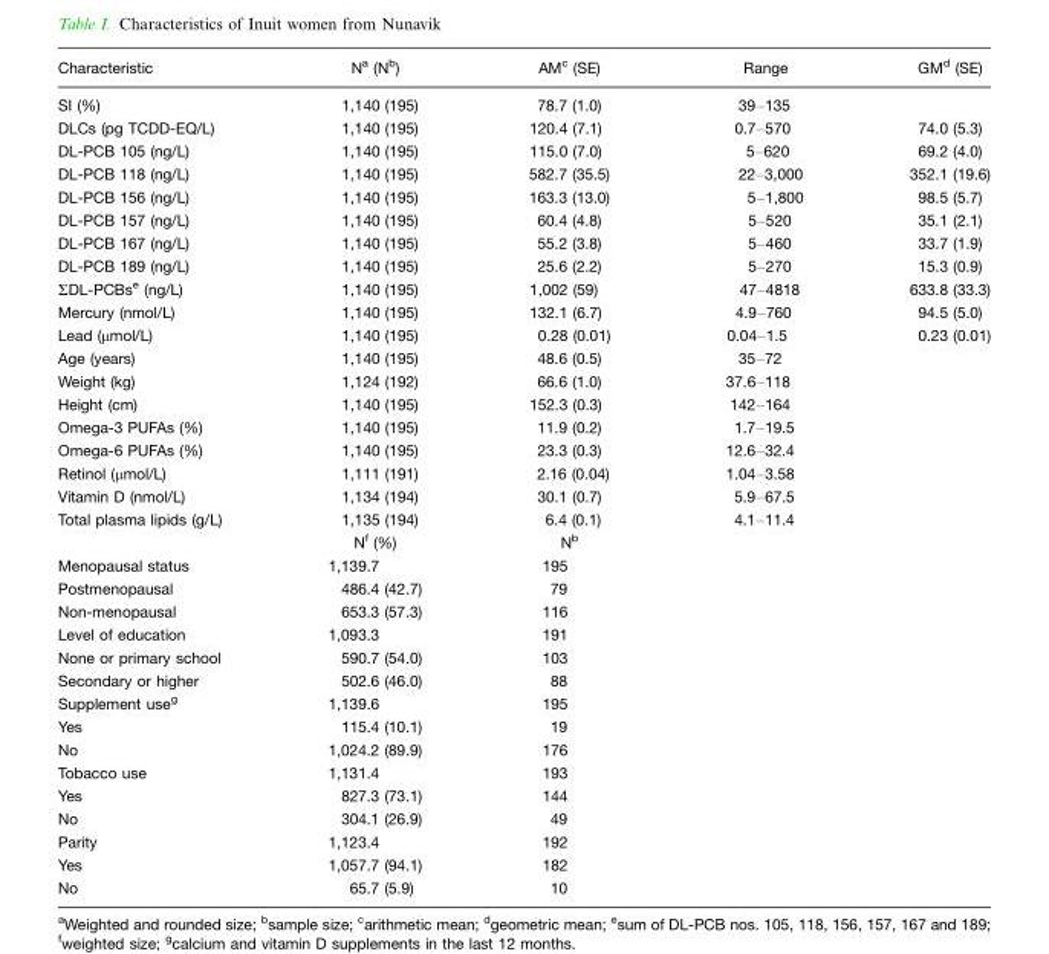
<table><thead><tr><td>Characteristic</td><td>N<sup>a</sup> (N<sup>b</sup>)</td><td>AM<sup>c</sup> (SE)</td><td>Range</td><td>GM<sup>d</sup> (SE)</td></tr></thead><tbody><tr><td>SI (%)</td><td>1,140 (195)</td><td>78.7 (1.0)</td><td>39–135</td><td></td></tr><tr><td>DLCs (pg TCDD-EQ/L)</td><td>1,140 (195)</td><td>120.4 (7.1)</td><td>0.7–570</td><td>74.0 (5.3)</td></tr><tr><td>DL-PCB 105 (ng/L)</td><td>1,140 (195)</td><td>115.0 (7.0)</td><td>5–620</td><td>69.2 (4.0)</td></tr><tr><td>DL-PCB 118 (ng/L)</td><td>1,140 (195)</td><td>582.7 (35.5)</td><td>22–3,000</td><td>352.1 (19.6)</td></tr><tr><td>DL-PCB 156 (ng/L)</td><td>1,140 (195)</td><td>163.3 (13.0)</td><td>5–1,800</td><td>98.5 (5.7)</td></tr><tr><td>DL-PCB 157 (ng/L)</td><td>1,140 (195)</td><td>60.4 (4.8)</td><td>5–520</td><td>35.1 (2.1)</td></tr><tr><td>DL-PCB 167 (ng/L)</td><td>1,140 (195)</td><td>55.2 (3.8)</td><td>5–460</td><td>33.7 (1.9)</td></tr><tr><td>DL-PCB 189 (ng/L)</td><td>1,140 (195)</td><td>25.6 (2.2)</td><td>5–270</td><td>15.3 (0.9)</td></tr><tr><td>ΣDL-PCBs<sup>e</sup> (ng/L)</td><td>1,140 (195)</td><td>1,002 (59)</td><td>47–4818</td><td>633.8 (33.3)</td></tr><tr><td>Mercury (nmol/L)</td><td>1,140 (195)</td><td>132.1 (6.7)</td><td>4.9–760</td><td>94.5 (5.0)</td></tr><tr><td>Lead (µmol/L)</td><td>1,140 (195)</td><td>0.28 (0.01)</td><td>0.04–1.5</td><td>0.23 (0.01)</td></tr><tr><td>Age (years)</td><td>1,140 (195)</td><td>48.6 (0.5)</td><td>35–72</td><td></td></tr><tr><td>Weight (kg)</td><td>1,124 (192)</td><td>66.6 (1.0)</td><td>37.6–118</td><td></td></tr><tr><td>Height (cm)</td><td>1,140 (195)</td><td>152.3 (0.3)</td><td>142–164</td><td></td></tr><tr><td>Omega-3 PUFAs (%)</td><td>1,140 (195)</td><td>11.9 (0.2)</td><td>1.7–19.5</td><td></td></tr><tr><td>Omega-6 PUFAs (%)</td><td>1,140 (195)</td><td>23.3 (0.3)</td><td>12.6–32.4</td><td></td></tr><tr><td>Retinol (µmol/L)</td><td>1,111 (191)</td><td>2.16 (0.04)</td><td>1.04–3.58</td><td></td></tr><tr><td>Vitamin D (nmol/L)</td><td>1,134 (194)</td><td>30.1 (0.7)</td><td>5.9–67.5</td><td></td></tr><tr><td rowspan="2">Total plasma lipids (g/L)</td><td>1,135 (194)</td><td>6.4 (0.1)</td><td>4.1–11.4</td><td></td></tr><tr><td>N<sup>f</sup> (%)</td><td>N<sup>b</sup></td><td></td><td></td></tr><tr><td>Menopausal status</td><td>1,139.7</td><td>195</td><td></td><td></td></tr><tr><td>Postmenopausal</td><td>486.4 (42.7)</td><td>79</td><td></td><td></td></tr><tr><td>Non-menopausal</td><td>653.3 (57.3)</td><td>116</td><td></td><td></td></tr><tr><td>Level of education</td><td>1,093.3</td><td>191</td><td></td><td></td></tr><tr><td>None or primary school</td><td>590.7 (54.0)</td><td>103</td><td></td><td></td></tr><tr><td>Secondary or higher</td><td>502.6 (46.0)</td><td>88</td><td></td><td></td></tr><tr><td>Supplement use<sup>g</sup></td><td>1,139.6</td><td>195</td><td></td><td></td></tr><tr><td>Yes</td><td>115.4 (10.1)</td><td>19</td><td></td><td></td></tr><tr><td>No</td><td>1,024.2 (89.9)</td><td>176</td><td></td><td></td></tr><tr><td>Tobacco use</td><td>1,131.4</td><td>193</td><td></td><td></td></tr><tr><td>Yes</td><td>827.3 (73.1)</td><td>144</td><td></td><td></td></tr><tr><td>No</td><td>304.1 (26.9)</td><td>49</td><td></td><td></td></tr><tr><td>Parity</td><td>1,123.4</td><td>192</td><td></td><td></td></tr><tr><td>Yes</td><td>1,057.7 (94.1)</td><td>182</td><td></td><td></td></tr><tr><td>No</td><td>65.7 (5.9)</td><td>10</td><td></td><td></td></tr></tbody></table>